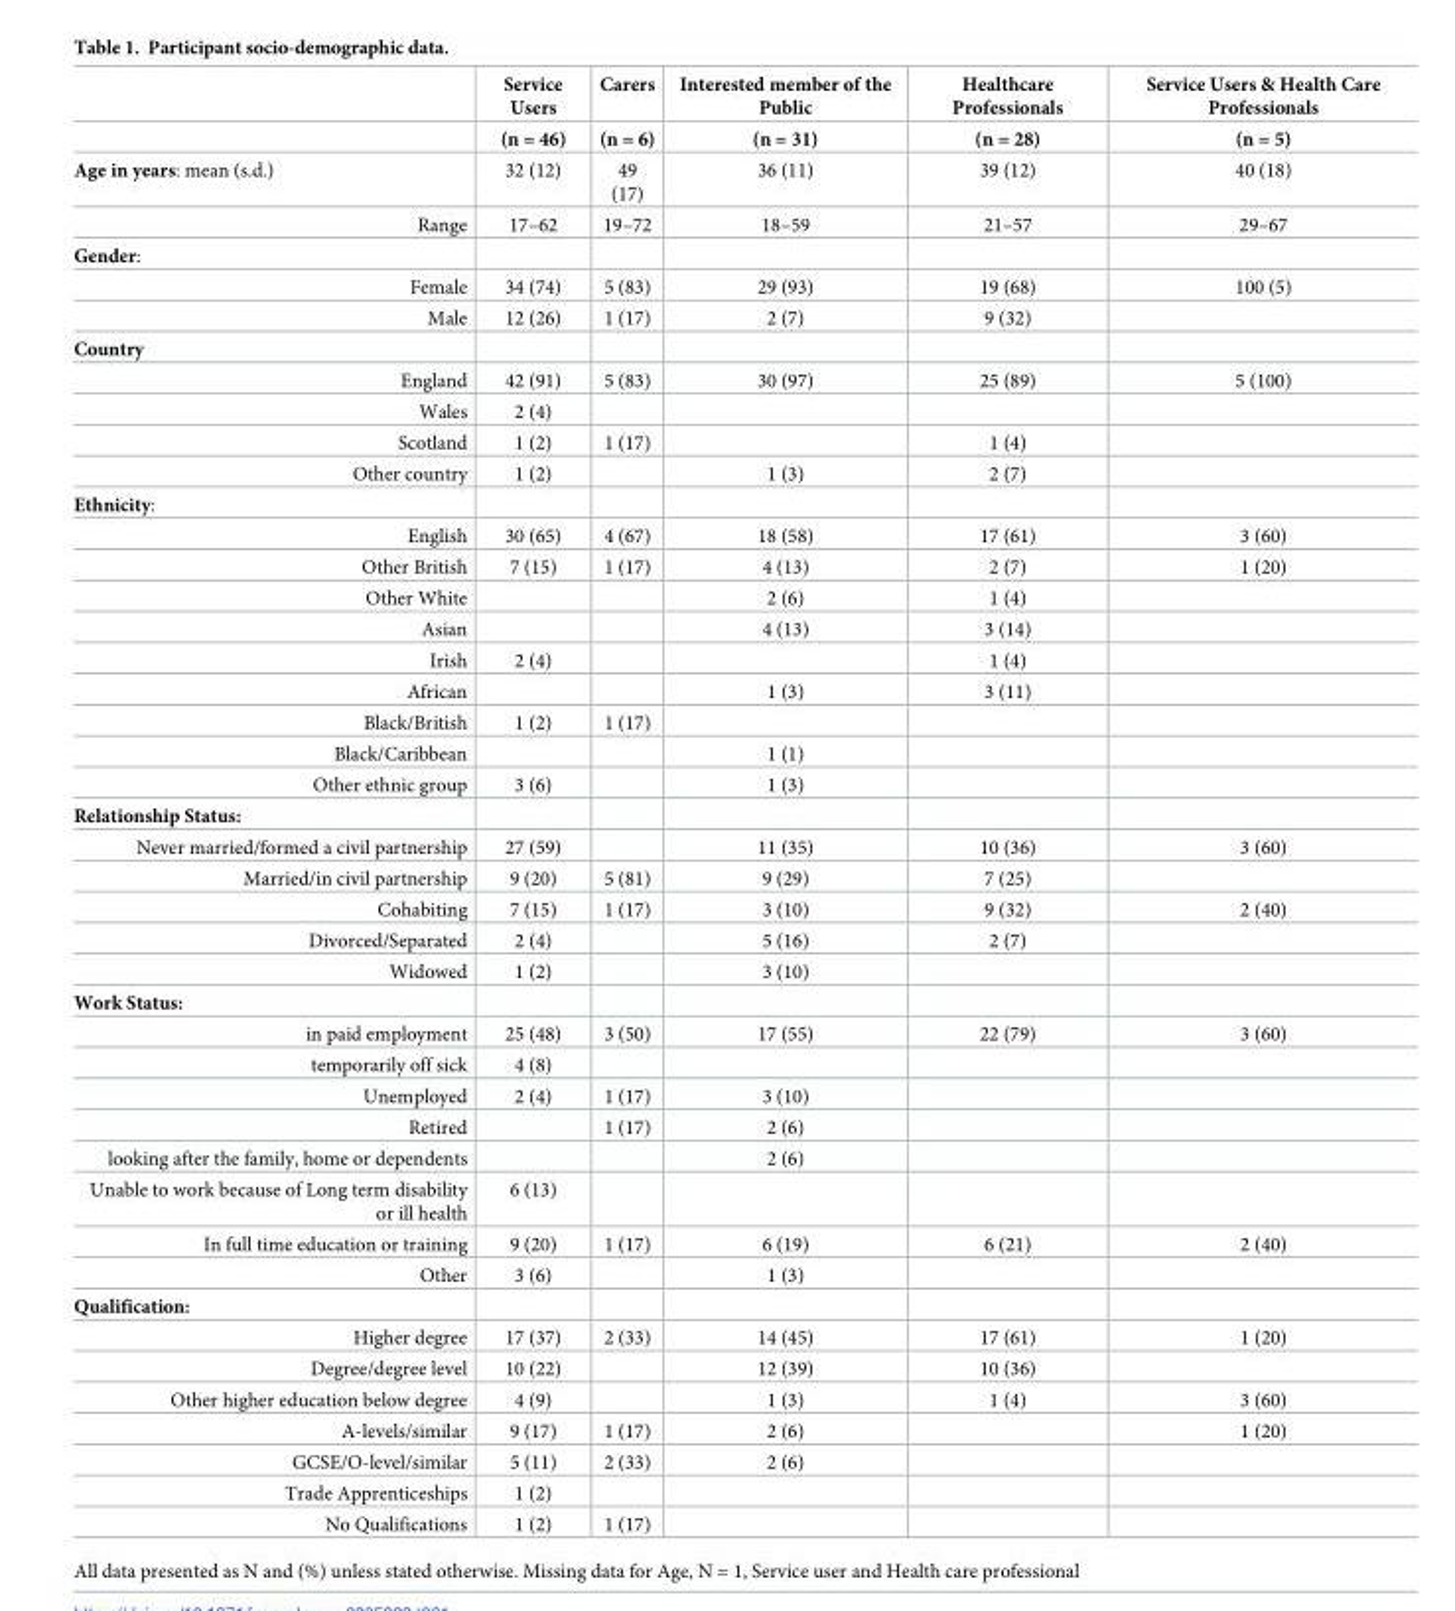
<table><thead><tr><td rowspan="2"></td><td rowspan="2">Service Users (n = 46)</td><td rowspan="2">Carers (n = 6)</td><td rowspan="2">Interested member of the Public (n = 31)</td><td rowspan="2">Healthcare Professionals (n = 28)</td><td rowspan="2">Service Users &amp; Health Care Professionals (n = 5)</td></tr><tr></tr></thead><tbody><tr><td>Age in years: mean (s.d.)</td><td>32 (12)</td><td>49 (17)</td><td>36 (11)</td><td>39 (12)</td><td>40 (18)</td></tr><tr><td>Range</td><td>17–62</td><td>19–72</td><td>18–59</td><td>21–57</td><td>29–67</td></tr><tr><td colspan="6">Gender:</td></tr><tr><td>Female</td><td>34 (74)</td><td>5 (83)</td><td>29 (93)</td><td>19 (68)</td><td>100 (5)</td></tr><tr><td>Male</td><td>12 (26)</td><td>1 (17)</td><td>2 (7)</td><td>9 (32)</td><td></td></tr><tr><td colspan="6">Country</td></tr><tr><td>England</td><td>42 (91)</td><td>5 (83)</td><td>30 (97)</td><td>25 (89)</td><td>5 (100)</td></tr><tr><td>Wales</td><td>2 (4)</td><td></td><td></td><td></td><td></td></tr><tr><td>Scotland</td><td>1 (2)</td><td>1 (17)</td><td></td><td>1 (4)</td><td></td></tr><tr><td>Other country</td><td>1 (2)</td><td></td><td>1 (3)</td><td>2 (7)</td><td></td></tr><tr><td colspan="6">Ethnicity:</td></tr><tr><td>English</td><td>30 (65)</td><td>4 (67)</td><td>18 (58)</td><td>17 (61)</td><td>3 (60)</td></tr><tr><td>Other British</td><td>7 (15)</td><td>1 (17)</td><td>4 (13)</td><td>2 (7)</td><td>1 (20)</td></tr><tr><td>Other White</td><td></td><td></td><td>2 (6)</td><td>1 (4)</td><td></td></tr><tr><td>Asian</td><td></td><td></td><td>4 (13)</td><td>3 (14)</td><td></td></tr><tr><td>Irish</td><td>2 (4)</td><td></td><td></td><td>1 (4)</td><td></td></tr><tr><td>African</td><td></td><td></td><td>1 (3)</td><td>3 (11)</td><td></td></tr><tr><td>Black/British</td><td>1 (2)</td><td>1 (17)</td><td></td><td></td><td></td></tr><tr><td>Black/Caribbean</td><td></td><td></td><td>1 (1)</td><td></td><td></td></tr><tr><td>Other ethnic group</td><td>3 (6)</td><td></td><td>1 (3)</td><td></td><td></td></tr><tr><td colspan="6">Relationship Status:</td></tr><tr><td>Never married/formed a civil partnership</td><td>27 (59)</td><td></td><td>11 (35)</td><td>10 (36)</td><td>3 (60)</td></tr><tr><td>Married/in civil partnership</td><td>9 (20)</td><td>5 (81)</td><td>9 (29)</td><td>7 (25)</td><td></td></tr><tr><td>Cohabiting</td><td>7 (15)</td><td>1 (17)</td><td>3 (10)</td><td>9 (32)</td><td>2 (40)</td></tr><tr><td>Divorced/Separated</td><td>2 (4)</td><td></td><td>5 (16)</td><td>2 (7)</td><td></td></tr><tr><td>Widowed</td><td>1 (2)</td><td></td><td>3 (10)</td><td></td><td></td></tr><tr><td colspan="6">Work Status:</td></tr><tr><td>in paid employment</td><td>25 (48)</td><td>3 (50)</td><td>17 (55)</td><td>22 (79)</td><td>3 (60)</td></tr><tr><td>temporarily off sick</td><td>4 (8)</td><td></td><td></td><td></td><td></td></tr><tr><td>Unemployed</td><td>2 (4)</td><td>1 (17)</td><td>3 (10)</td><td></td><td></td></tr><tr><td>Retired</td><td></td><td>1 (17)</td><td>2 (6)</td><td></td><td></td></tr><tr><td>looking after the family, home or dependents</td><td></td><td></td><td>2 (6)</td><td></td><td></td></tr><tr><td>Unable to work because of Long term disability or ill health</td><td>6 (13)</td><td></td><td></td><td></td><td></td></tr><tr><td>In full time education or training</td><td>9 (20)</td><td>1 (17)</td><td>6 (19)</td><td>6 (21)</td><td>2 (40)</td></tr><tr><td>Other</td><td>3 (6)</td><td></td><td>1 (3)</td><td></td><td></td></tr><tr><td colspan="6">Qualification:</td></tr><tr><td>Higher degree</td><td>17 (37)</td><td>2 (33)</td><td>14 (45)</td><td>17 (61)</td><td>1 (20)</td></tr><tr><td>Degree/degree level</td><td>10 (22)</td><td></td><td>12 (39)</td><td>10 (36)</td><td></td></tr><tr><td>Other higher education below degree</td><td>4 (9)</td><td></td><td>1 (3)</td><td>1 (4)</td><td>3 (60)</td></tr><tr><td>A-levels/similar</td><td>9 (17)</td><td>1 (17)</td><td>2 (6)</td><td></td><td>1 (20)</td></tr><tr><td>GCSE/O-level/similar</td><td>5 (11)</td><td>2 (33)</td><td>2 (6)</td><td></td><td></td></tr><tr><td>Trade Apprenticeships</td><td>1 (2)</td><td></td><td></td><td></td><td></td></tr><tr><td>No Qualifications</td><td>1 (2)</td><td>1 (17)</td><td></td><td></td><td></td></tr></tbody></table>